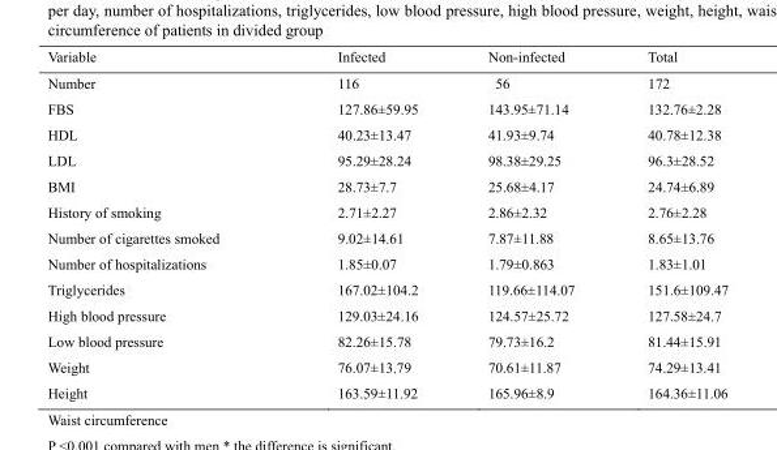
<table><thead><tr><td>Variable</td><td>Infected</td><td>Non-infected</td><td>Total</td></tr></thead><tbody><tr><td>Number</td><td>116</td><td>56</td><td>172</td></tr><tr><td>FBS</td><td>127.86±59.95</td><td>143.95±71.14</td><td>132.76±2.28</td></tr><tr><td>HDL</td><td>40.23±13.47</td><td>41.93±9.74</td><td>40.78±12.38</td></tr><tr><td>LDL</td><td>95.29±28.24</td><td>98.38±29.25</td><td>96.3±28.52</td></tr><tr><td>BMI</td><td>28.73±7.7</td><td>25.68±4.17</td><td>24.74±6.89</td></tr><tr><td>History of smoking</td><td>2.71±2.27</td><td>2.86±2.32</td><td>2.76±2.28</td></tr><tr><td>Number of cigarettes smoked</td><td>9.02±14.61</td><td>7.87±11.88</td><td>8.65±13.76</td></tr><tr><td>Number of hospitalizations</td><td>1.85±0.07</td><td>1.79±0.863</td><td>1.83±1.01</td></tr><tr><td>Triglycerides</td><td>167.02±104.2</td><td>119.66±114.07</td><td>151.6±109.47</td></tr><tr><td>High blood pressure</td><td>129.03±24.16</td><td>124.57±25.72</td><td>127.58±24.7</td></tr><tr><td>Low blood pressure</td><td>82.26±15.78</td><td>79.73±16.2</td><td>81.44±15.91</td></tr><tr><td>Weight</td><td>76.07±13.79</td><td>70.61±11.87</td><td>74.29±13.41</td></tr><tr><td>Height</td><td>163.59±11.92</td><td>165.96±8.9</td><td>164.36±11.06</td></tr></tbody></table>